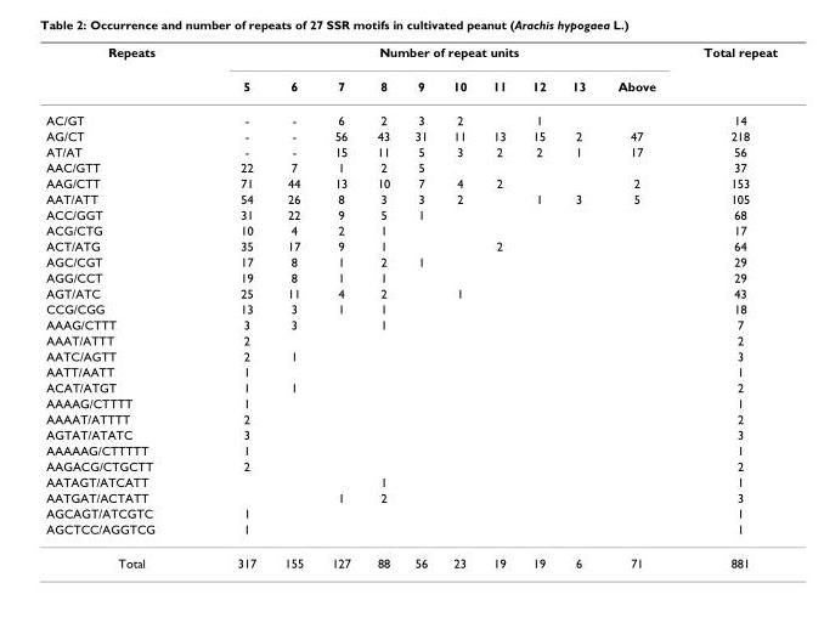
<table><thead><tr><td rowspan="2">Repeats</td><td colspan="10">Number of repeat units</td><td rowspan="2">Total repeat</td></tr><tr><td>5</td><td>6</td><td>7</td><td>8</td><td>9</td><td>10</td><td>11</td><td>12</td><td>13</td><td>Above</td></tr></thead><tbody><tr><td>AC/GT</td><td>-</td><td>-</td><td>6</td><td>2</td><td>3</td><td>2</td><td></td><td>1</td><td></td><td></td><td>14</td></tr><tr><td>AG/CT</td><td>-</td><td>-</td><td>56</td><td>43</td><td>31</td><td>11</td><td>13</td><td>15</td><td>2</td><td>47</td><td>218</td></tr><tr><td>AT/AT</td><td>-</td><td>-</td><td>15</td><td>11</td><td>5</td><td>3</td><td>2</td><td>2</td><td>1</td><td>17</td><td>56</td></tr><tr><td>AAC/GTT</td><td>22</td><td>7</td><td>1</td><td>2</td><td>5</td><td></td><td></td><td></td><td></td><td></td><td>37</td></tr><tr><td>AAG/CTT</td><td>71</td><td>44</td><td>13</td><td>10</td><td>7</td><td>4</td><td>2</td><td></td><td></td><td>2</td><td>153</td></tr><tr><td>AAT/ATT</td><td>54</td><td>26</td><td>8</td><td>3</td><td>3</td><td>2</td><td></td><td>1</td><td>3</td><td>5</td><td>105</td></tr><tr><td>ACC/GGT</td><td>31</td><td>22</td><td>9</td><td>5</td><td>1</td><td></td><td></td><td></td><td></td><td></td><td>68</td></tr><tr><td>ACG/CTG</td><td>10</td><td>4</td><td>2</td><td>1</td><td></td><td></td><td></td><td></td><td></td><td></td><td>17</td></tr><tr><td>ACT/ATG</td><td>35</td><td>17</td><td>9</td><td>1</td><td></td><td></td><td>2</td><td></td><td></td><td></td><td>64</td></tr><tr><td>AGC/CGT</td><td>17</td><td>8</td><td>1</td><td>2</td><td>1</td><td></td><td></td><td></td><td></td><td></td><td>29</td></tr><tr><td>AGG/CCT</td><td>19</td><td>8</td><td>1</td><td>1</td><td></td><td></td><td></td><td></td><td></td><td></td><td>29</td></tr><tr><td>AGT/ATC</td><td>25</td><td>11</td><td>4</td><td>2</td><td></td><td>1</td><td></td><td></td><td></td><td></td><td>43</td></tr><tr><td>CCG/CGG</td><td>13</td><td>3</td><td>1</td><td>1</td><td></td><td></td><td></td><td></td><td></td><td></td><td>18</td></tr><tr><td>AAAG/CTTT</td><td>3</td><td>3</td><td></td><td>1</td><td></td><td></td><td></td><td></td><td></td><td></td><td>7</td></tr><tr><td>AAAT/ATTT</td><td>2</td><td></td><td></td><td></td><td></td><td></td><td></td><td></td><td></td><td></td><td>2</td></tr><tr><td>AATC/AGTT</td><td>2</td><td>1</td><td></td><td></td><td></td><td></td><td></td><td></td><td></td><td></td><td>3</td></tr><tr><td>AATT/AATT</td><td>1</td><td></td><td></td><td></td><td></td><td></td><td></td><td></td><td></td><td></td><td>1</td></tr><tr><td>ACAT/ATGT</td><td>1</td><td>1</td><td></td><td></td><td></td><td></td><td></td><td></td><td></td><td></td><td>2</td></tr><tr><td>AAAAG/CTTTT</td><td>1</td><td></td><td></td><td></td><td></td><td></td><td></td><td></td><td></td><td></td><td>1</td></tr><tr><td>AAAAT/ATTTT</td><td>2</td><td></td><td></td><td></td><td></td><td></td><td></td><td></td><td></td><td></td><td>2</td></tr><tr><td>AGTAT/ATATC</td><td>3</td><td></td><td></td><td></td><td></td><td></td><td></td><td></td><td></td><td></td><td>3</td></tr><tr><td>AAAAAG/CTTTTT</td><td>1</td><td></td><td></td><td></td><td></td><td></td><td></td><td></td><td></td><td></td><td>1</td></tr><tr><td>AAGACG/CTGCTT</td><td>2</td><td></td><td></td><td></td><td></td><td></td><td></td><td></td><td></td><td></td><td>2</td></tr><tr><td>AATAGT/ATCATT</td><td></td><td></td><td></td><td>1</td><td></td><td></td><td></td><td></td><td></td><td></td><td>1</td></tr><tr><td>AATGAT/ACTATT</td><td></td><td></td><td>1</td><td>2</td><td></td><td></td><td></td><td></td><td></td><td></td><td>3</td></tr><tr><td>AGCAGT/ATCGTC</td><td>1</td><td></td><td></td><td></td><td></td><td></td><td></td><td></td><td></td><td></td><td>1</td></tr><tr><td>AGCTCC/AGGTCG</td><td>1</td><td></td><td></td><td></td><td></td><td></td><td></td><td></td><td></td><td></td><td>1</td></tr><tr><td>Total</td><td>317</td><td>155</td><td>127</td><td>88</td><td>56</td><td>23</td><td>19</td><td>19</td><td>6</td><td>71</td><td>881</td></tr></tbody></table>